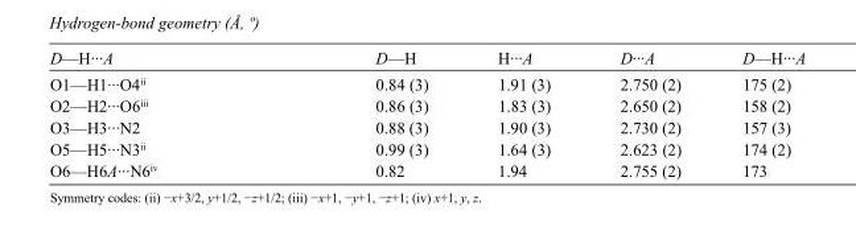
<table><tbody><tr><td>D—H···A</td><td>D—H</td><td>H···A</td><td>D···A</td><td>D—H···A</td></tr><tr><td>O1—H1···O4<sup>ii</sup></td><td>0.84 (3)</td><td>1.91 (3)</td><td>2.750 (2)</td><td>175 (2)</td></tr><tr><td>O2—H2···O6<sup>iii</sup></td><td>0.86 (3)</td><td>1.83 (3)</td><td>2.650 (2)</td><td>158 (2)</td></tr><tr><td>O3—H3···N2</td><td>0.88 (3)</td><td>1.90 (3)</td><td>2.730 (2)</td><td>157 (3)</td></tr><tr><td>O5—H5···N3<sup>ii</sup></td><td>0.99 (3)</td><td>1.64 (3)</td><td>2.623 (2)</td><td>174 (2)</td></tr><tr><td>O6—H6A···N6<sup>iv</sup></td><td>0.82</td><td>1.94</td><td>2.755 (2)</td><td>173</td></tr></tbody></table>